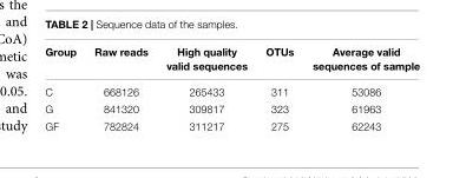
<table><thead><tr><td>Group</td><td>Raw reads</td><td>High quality valid sequences</td><td>OTUs</td><td>Average valid sequences of sample</td></tr></thead><tbody><tr><td>C</td><td>668126</td><td>265433</td><td>311</td><td>53086</td></tr><tr><td>G</td><td>841320</td><td>309817</td><td>323</td><td>61963</td></tr><tr><td>GF</td><td>782824</td><td>311217</td><td>275</td><td>62243</td></tr></tbody></table>